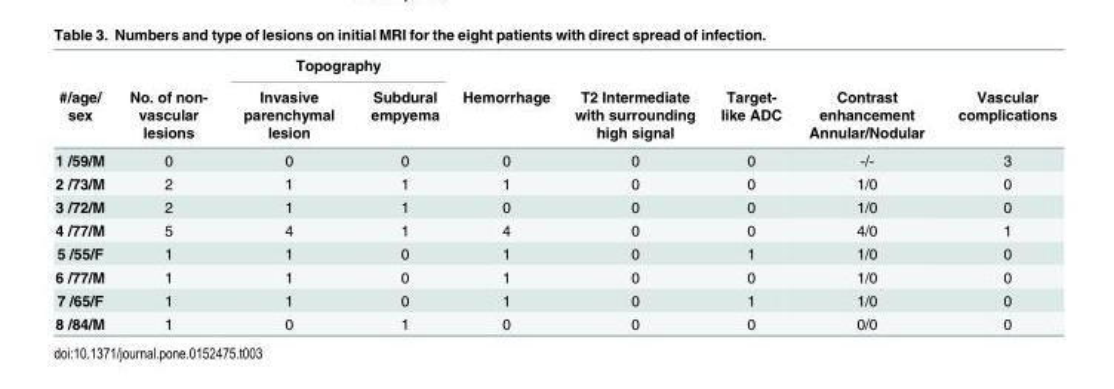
<table><thead><tr><td rowspan="2">#/age/ sex</td><td rowspan="2">No. of non- vascular lesions</td><td colspan="2">Topography</td><td rowspan="2">Hemorrhage</td><td rowspan="2">T2 Intermediate with surrounding high signal</td><td rowspan="2">Target- like ADC</td><td rowspan="2">Contrast enhancement Annular/Nodular</td><td rowspan="2">Vascular complications</td></tr><tr><td>Invasive parenchymal lesion</td><td>Subdural empyema</td></tr></thead><tbody><tr><td>1 /59/M</td><td>0</td><td>0</td><td>0</td><td>0</td><td>0</td><td>0</td><td>-/-</td><td>3</td></tr><tr><td>2 /73/M</td><td>2</td><td>1</td><td>1</td><td>1</td><td>0</td><td>0</td><td>1/0</td><td>0</td></tr><tr><td>3 /72/M</td><td>2</td><td>1</td><td>1</td><td>0</td><td>0</td><td>0</td><td>1/0</td><td>0</td></tr><tr><td>4 /77/M</td><td>5</td><td>4</td><td>1</td><td>4</td><td>0</td><td>0</td><td>4/0</td><td>1</td></tr><tr><td>5 /55/F</td><td>1</td><td>1</td><td>0</td><td>1</td><td>0</td><td>1</td><td>1/0</td><td>0</td></tr><tr><td>6 /77/M</td><td>1</td><td>1</td><td>0</td><td>1</td><td>0</td><td>0</td><td>1/0</td><td>0</td></tr><tr><td>7 /65/F</td><td>1</td><td>1</td><td>0</td><td>1</td><td>0</td><td>1</td><td>1/0</td><td>0</td></tr><tr><td>8 /84/M</td><td>1</td><td>0</td><td>1</td><td>0</td><td>0</td><td>0</td><td>0/0</td><td>0</td></tr></tbody></table>